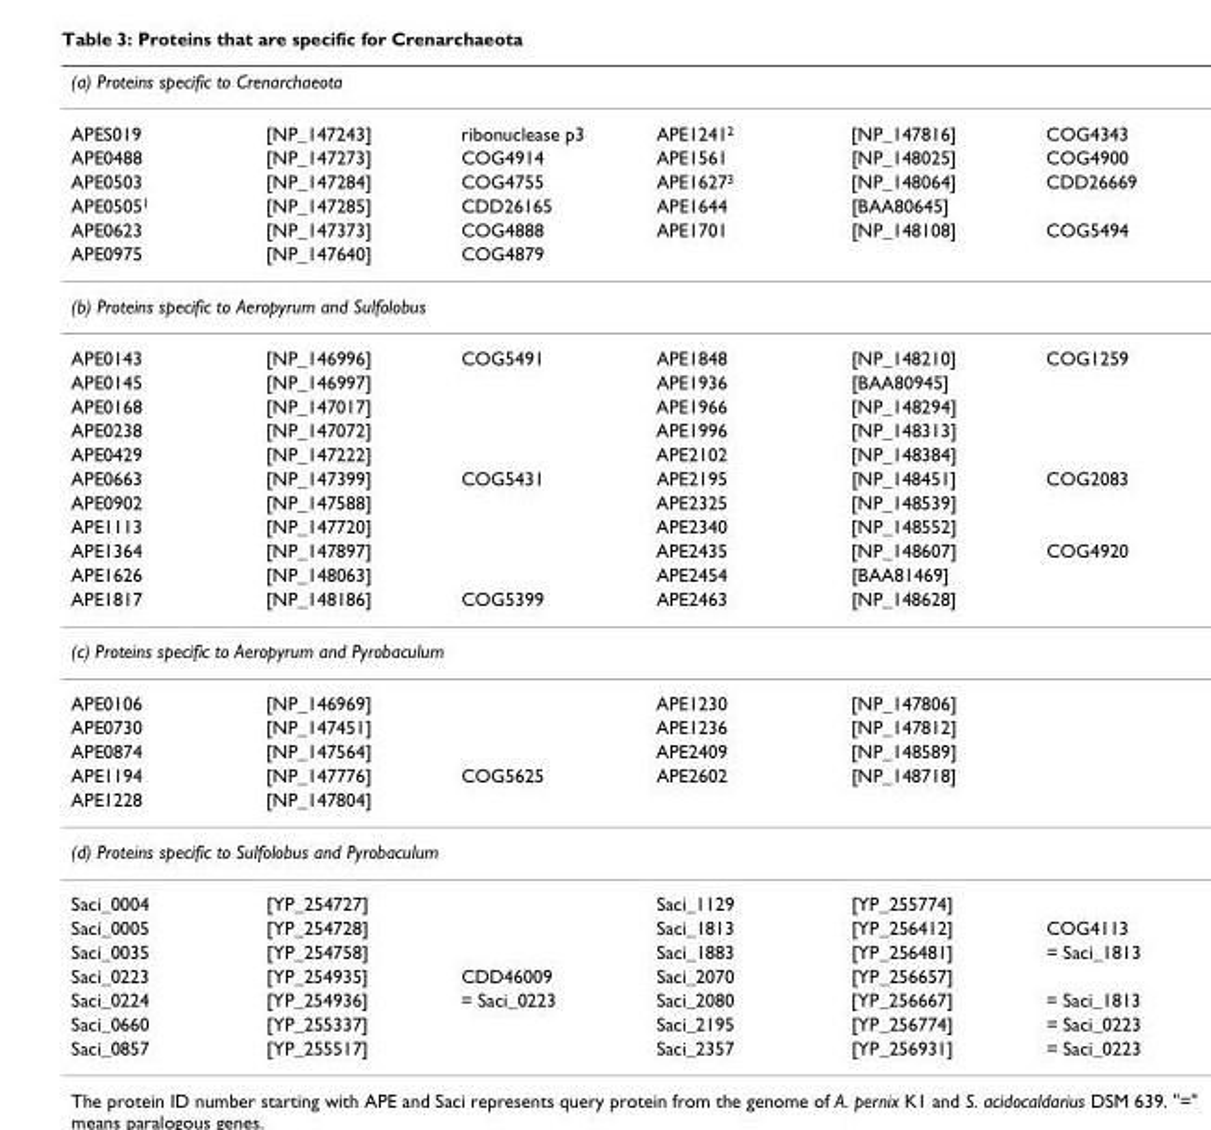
<table><thead><tr><td colspan="6">(a) Proteins specific to Crenarchaeota</td></tr><tr><td>APES019</td><td>[NP_147243]</td><td>ribonuclease p3</td><td>APE12412</td><td>[NP_147816]</td><td>COG4343</td></tr></thead><tbody><tr><td>APE0488</td><td>[NP_147273]</td><td>COG4914</td><td>APE1561</td><td>[NP_148025]</td><td>COG4900</td></tr><tr><td>APE0503</td><td>[NP_147284]</td><td>COG4755</td><td>APE16273</td><td>[NP_148064]</td><td>CDD26669</td></tr><tr><td>APE05051</td><td>[NP_147285]</td><td>CDD26165</td><td>APE1644</td><td>[BAA80645]</td><td></td></tr><tr><td>APE0623</td><td>[NP_147373]</td><td>COG4888</td><td>APE1701</td><td>[NP_148108]</td><td>COG5494</td></tr><tr><td>APE0975</td><td>[NP_147640]</td><td>COG4879</td><td></td><td></td><td></td></tr><tr><td colspan="6">(b) Proteins specific to Aeropyrum and Sulfolobus</td></tr><tr><td>APE0143</td><td>[NP_146996]</td><td>COG5491</td><td>APE1848</td><td>[NP_148210]</td><td>COG1259</td></tr><tr><td>APE0145</td><td>[NP_146997]</td><td></td><td>APE1936</td><td>[BAA80945]</td><td></td></tr><tr><td>APE0168</td><td>[NP_147017]</td><td></td><td>APE1966</td><td>[NP_148294]</td><td></td></tr><tr><td>APE0238</td><td>[NP_147072]</td><td></td><td>APE1996</td><td>[NP_148313]</td><td></td></tr><tr><td>APE0429</td><td>[NP_147222]</td><td></td><td>APE2102</td><td>[NP_148384]</td><td></td></tr><tr><td>APE0663</td><td>[NP_147399]</td><td>COG5431</td><td>APE2195</td><td>[NP_148451]</td><td>COG2083</td></tr><tr><td>APE0902</td><td>[NP_147588]</td><td></td><td>APE2325</td><td>[NP_148539]</td><td></td></tr><tr><td>APE1113</td><td>[NP_147720]</td><td></td><td>APE2340</td><td>[NP_148552]</td><td></td></tr><tr><td>APE1364</td><td>[NP_147897]</td><td></td><td>APE2435</td><td>[NP_148607]</td><td>COG4920</td></tr><tr><td>APE1626</td><td>[NP_148063]</td><td></td><td>APE2454</td><td>[BAA81469]</td><td></td></tr><tr><td>APE1817</td><td>[NP_148186]</td><td>COG5399</td><td>APE2463</td><td>[NP_148628]</td><td></td></tr><tr><td colspan="6">(c) Proteins specific to Aeropyrum and Pyrobaculum</td></tr><tr><td>APE0106</td><td>[NP_146969]</td><td></td><td>APE1230</td><td>[NP_147806]</td><td></td></tr><tr><td>APE0730</td><td>[NP_147451]</td><td></td><td>APE1236</td><td>[NP_147812]</td><td></td></tr><tr><td>APE0874</td><td>[NP_147564]</td><td></td><td>APE2409</td><td>[NP_148589]</td><td></td></tr><tr><td>APE1194</td><td>[NP_147776]</td><td>COG5625</td><td>APE2602</td><td>[NP_148718]</td><td></td></tr><tr><td>APE1228</td><td>[NP_147804]</td><td></td><td></td><td></td><td></td></tr><tr><td colspan="6">(d) Proteins specific to Sulfolobus and Pyrobaculum</td></tr><tr><td>Saci_0004</td><td>[YP_254727]</td><td></td><td>Saci_1129</td><td>[YP_255774]</td><td></td></tr><tr><td>Saci_0005</td><td>[YP_254728]</td><td></td><td>Saci_1813</td><td>[YP_256412]</td><td>COG4113</td></tr><tr><td>Saci_0035</td><td>[YP_254758]</td><td></td><td>Saci_1883</td><td>[YP_256481]</td><td>= Saci_1813</td></tr><tr><td>Saci_0223</td><td>[YP_254935]</td><td>CDD46009</td><td>Saci_2070</td><td>[YP_256657]</td><td></td></tr><tr><td>Saci_0224</td><td>[YP_254936]</td><td>= Saci_0223</td><td>Saci_2080</td><td>[YP_256667]</td><td>= Saci_1813</td></tr><tr><td>Saci_0660</td><td>[YP_255337]</td><td></td><td>Saci_2195</td><td>[YP_256774]</td><td>= Saci_0223</td></tr><tr><td>Saci_0857</td><td>[YP_255517]</td><td></td><td>Saci_2357</td><td>[YP_256931]</td><td>= Saci_0223</td></tr></tbody></table>